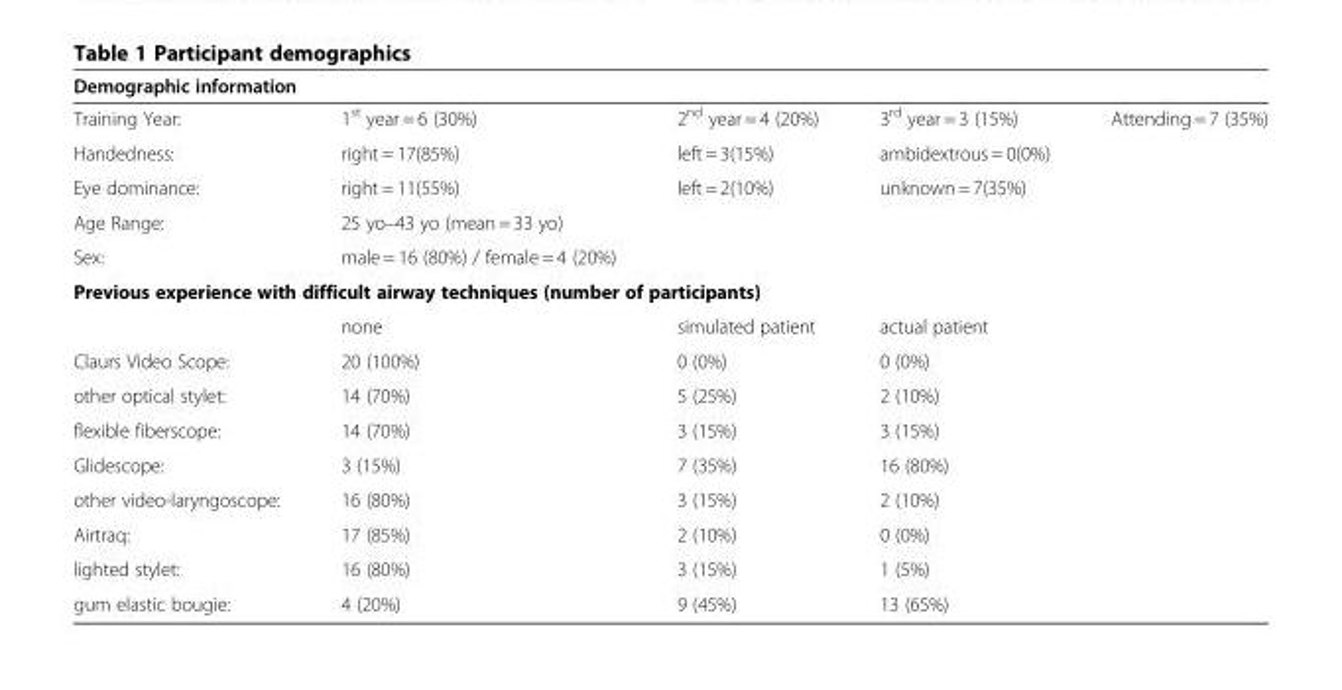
<table><thead><tr><td colspan="5">Demographic information</td></tr><tr><td>Training Year:</td><td>1<sup>st</sup> year = 6 (30%)</td><td>2<sup>nd</sup> year = 4 (20%)</td><td>3<sup>rd</sup> year = 3 (15%)</td><td>Attending = 7 (35%)</td></tr></thead><tbody><tr><td>Handedness:</td><td>right = 17(85%)</td><td>left = 3(15%)</td><td>ambidextrous = 0(0%)</td><td></td></tr><tr><td>Eye dominance:</td><td>right = 11(55%)</td><td>left = 2(10%)</td><td>unknown = 7(35%)</td><td></td></tr><tr><td>Age Range:</td><td>25 yo–43 yo (mean = 33 yo)</td><td></td><td></td><td></td></tr><tr><td>Sex:</td><td>male = 16 (80%) / female = 4 (20%)</td><td></td><td></td><td></td></tr><tr><td colspan="5">Previous experience with difficult airway techniques (number of participants)</td></tr><tr><td></td><td>none</td><td>simulated patient</td><td>actual patient</td><td></td></tr><tr><td>Claurs Video Scope:</td><td>20 (100%)</td><td>0 (0%)</td><td>0 (0%)</td><td></td></tr><tr><td>other optical stylet:</td><td>14 (70%)</td><td>5 (25%)</td><td>2 (10%)</td><td></td></tr><tr><td>flexible fiberscope:</td><td>14 (70%)</td><td>3 (15%)</td><td>3 (15%)</td><td></td></tr><tr><td>Glidescope:</td><td>3 (15%)</td><td>7 (35%)</td><td>16 (80%)</td><td></td></tr><tr><td>other video-laryngoscope:</td><td>16 (80%)</td><td>3 (15%)</td><td>2 (10%)</td><td></td></tr><tr><td>Airtraq:</td><td>17 (85%)</td><td>2 (10%)</td><td>0 (0%)</td><td></td></tr><tr><td>lighted stylet:</td><td>16 (80%)</td><td>3 (15%)</td><td>1 (5%)</td><td></td></tr><tr><td>gum elastic bougie:</td><td>4 (20%)</td><td>9 (45%)</td><td>13 (65%)</td><td></td></tr></tbody></table>